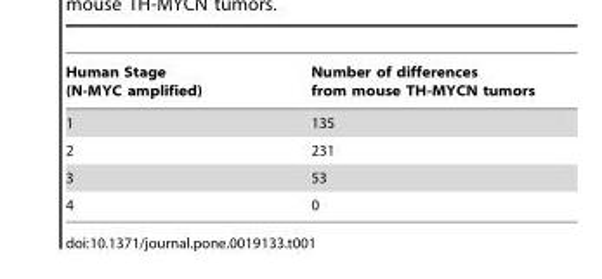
<table><thead><tr><td>Human Stage (N-MYC amplified)</td><td>Number of differences from mouse TH-MYCN tumors</td></tr></thead><tbody><tr><td>1</td><td>135</td></tr><tr><td>2</td><td>231</td></tr><tr><td>3</td><td>53</td></tr><tr><td>4</td><td>0</td></tr></tbody></table>